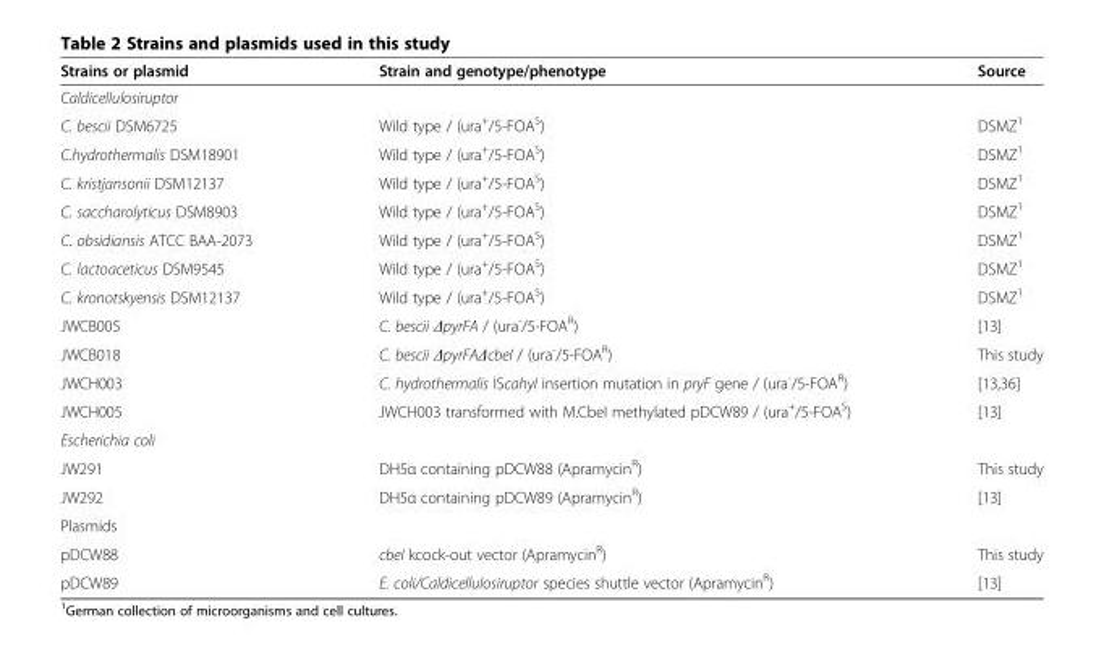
<table><thead><tr><td>Strains or plasmid</td><td>Strain and genotype/phenotype</td><td>Source</td></tr></thead><tbody><tr><td colspan="3">Caldicellulosiruptor</td></tr><tr><td>C. bescii DSM6725</td><td>Wild type / (ura<sup>+</sup>/5-FOA<sup>S</sup>)</td><td>DSMZ<sup>1</sup></td></tr><tr><td>C.hydrothermalis DSM18901</td><td>Wild type / (ura<sup>+</sup>/5-FOA<sup>S</sup>)</td><td>DSMZ<sup>1</sup></td></tr><tr><td>C. kristjansonii DSM12137</td><td>Wild type / (ura<sup>+</sup>/5-FOA<sup>S</sup>)</td><td>DSMZ<sup>1</sup></td></tr><tr><td>C. saccharolyticus DSM8903</td><td>Wild type / (ura<sup>+</sup>/5-FOA<sup>S</sup>)</td><td>DSMZ<sup>1</sup></td></tr><tr><td>C. obsidiansis ATCC BAA-2073</td><td>Wild type / (ura<sup>+</sup>/5-FOA<sup>S</sup>)</td><td>DSMZ<sup>1</sup></td></tr><tr><td>C. lactoaceticus DSM9545</td><td>Wild type / (ura<sup>+</sup>/5-FOA<sup>S</sup>)</td><td>DSMZ<sup>1</sup></td></tr><tr><td>C. kronotskyensis DSM12137</td><td>Wild type / (ura<sup>+</sup>/5-FOA<sup>S</sup>)</td><td>DSMZ<sup>1</sup></td></tr><tr><td>JWCB005</td><td>C. bescii ΔpyrFA / (ura<sup>-</sup>/5-FOA<sup>R</sup>)</td><td>[13]</td></tr><tr><td>JWCB018</td><td>C. bescii ΔpyrFAΔcbeI / (ura<sup>-</sup>/5-FOA<sup>R</sup>)</td><td>This study</td></tr><tr><td>JWCH003</td><td>C. hydrothermalis IScahyI insertion mutation in pryF gene / (ura<sup>-</sup>/5-FOA<sup>R</sup>)</td><td>[13,36]</td></tr><tr><td>JWCH005</td><td>JWCH003 transformed with M.CbeI methylated pDCW89 / (ura<sup>+</sup>/5-FOA<sup>S</sup>)</td><td>[13]</td></tr><tr><td colspan="3">Escherichia coli</td></tr><tr><td>JW291</td><td>DH5α containing pDCW88 (Apramycin<sup>R</sup>)</td><td>This study</td></tr><tr><td>JW292</td><td>DH5α containing pDCW89 (Apramycin<sup>R</sup>)</td><td>[13]</td></tr><tr><td colspan="3">Plasmids</td></tr><tr><td>pDCW88</td><td>cbeI kcock-out vector (Apramycin<sup>R</sup>)</td><td>This study</td></tr><tr><td>pDCW89</td><td>E. coli/Caldicellulosiruptor species shuttle vector (Apramycin<sup>R</sup>)</td><td>[13]</td></tr></tbody></table>